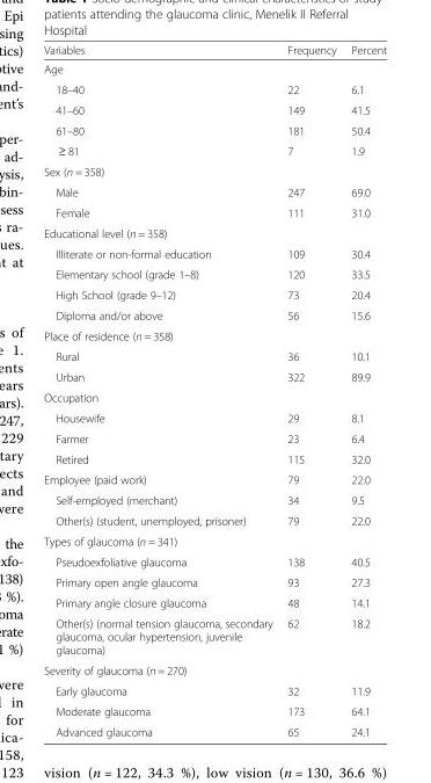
<table><thead><tr><td>Variables</td><td>Frequency</td><td>Percent</td></tr></thead><tbody><tr><td colspan="3">Age</td></tr><tr><td>18–40</td><td>22</td><td>6.1</td></tr><tr><td>41–60</td><td>149</td><td>41.5</td></tr><tr><td>61–80</td><td>181</td><td>50.4</td></tr><tr><td>≥ 81</td><td>7</td><td>1.9</td></tr><tr><td colspan="3">Sex (n = 358)</td></tr><tr><td>Male</td><td>247</td><td>69.0</td></tr><tr><td>Female</td><td>111</td><td>31.0</td></tr><tr><td colspan="3">Educational level (n = 358)</td></tr><tr><td>Illiterate or non-formal education</td><td>109</td><td>30.4</td></tr><tr><td>Elementary school (grade 1–8)</td><td>120</td><td>33.5</td></tr><tr><td>High School (grade 9–12)</td><td>73</td><td>20.4</td></tr><tr><td>Diploma and/or above</td><td>56</td><td>15.6</td></tr><tr><td colspan="3">Place of residence (n = 358)</td></tr><tr><td>Rural</td><td>36</td><td>10.1</td></tr><tr><td>Urban</td><td>322</td><td>89.9</td></tr><tr><td colspan="3">Occupation</td></tr><tr><td>Housewife</td><td>29</td><td>8.1</td></tr><tr><td>Farmer</td><td>23</td><td>6.4</td></tr><tr><td>Retired</td><td>115</td><td>32.0</td></tr><tr><td>Employee (paid work)</td><td>79</td><td>22.0</td></tr><tr><td>Self-employed (merchant)</td><td>34</td><td>9.5</td></tr><tr><td>Other(s) (student, unemployed, prisoner)</td><td>79</td><td>22.0</td></tr><tr><td colspan="3">Types of glaucoma (n = 341)</td></tr><tr><td>Pseudoexfoliative glaucoma</td><td>138</td><td>40.5</td></tr><tr><td>Primary open angle glaucoma</td><td>93</td><td>27.3</td></tr><tr><td>Primary angle closure glaucoma</td><td>48</td><td>14.1</td></tr><tr><td>Other(s) (normal tension glaucoma, secondary glaucoma, ocular hypertension, juvenile glaucoma)</td><td>62</td><td>18.2</td></tr><tr><td colspan="3">Severity of glaucoma (n = 270)</td></tr><tr><td>Early glaucoma</td><td>32</td><td>11.9</td></tr><tr><td>Moderate glaucoma</td><td>173</td><td>64.1</td></tr><tr><td>Advanced glaucoma</td><td>65</td><td>24.1</td></tr></tbody></table>